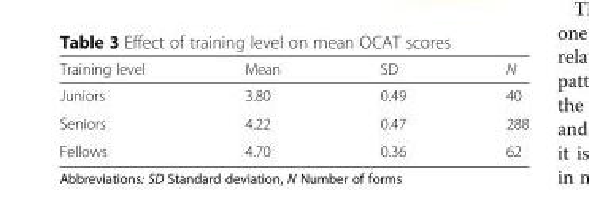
<table><thead><tr><td>Training level</td><td>Mean</td><td>SD</td><td>N</td></tr></thead><tbody><tr><td>Juniors</td><td>3.80</td><td>0.49</td><td>40</td></tr><tr><td>Seniors</td><td>4.22</td><td>0.47</td><td>288</td></tr><tr><td>Fellows</td><td>4.70</td><td>0.36</td><td>62</td></tr></tbody></table>